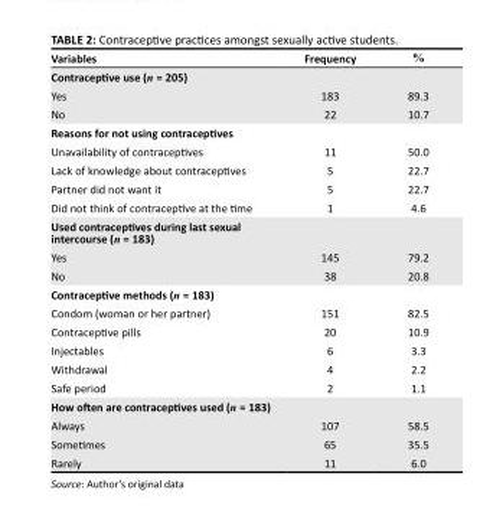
<table><thead><tr><td>Variables</td><td>Frequency</td><td>%</td></tr></thead><tbody><tr><td colspan="3">Contraceptive use (n = 205)</td></tr><tr><td>Yes</td><td>183</td><td>89.3</td></tr><tr><td>No</td><td>22</td><td>10.7</td></tr><tr><td colspan="3">Reasons for not using contraceptives</td></tr><tr><td>Unavailability of contraceptives</td><td>11</td><td>50.0</td></tr><tr><td>Lack of knowledge about contraceptives</td><td>5</td><td>22.7</td></tr><tr><td>Partner did not want it</td><td>5</td><td>22.7</td></tr><tr><td>Did not think of contraceptive at the time</td><td>1</td><td>4.6</td></tr><tr><td colspan="3">Used contraceptives during last sexual intercourse (n = 183)</td></tr><tr><td>Yes</td><td>145</td><td>79.2</td></tr><tr><td>No</td><td>38</td><td>20.8</td></tr><tr><td colspan="3">Contraceptive methods (n = 183)</td></tr><tr><td>Condom (woman or her partner)</td><td>151</td><td>82.5</td></tr><tr><td>Contraceptive pills</td><td>20</td><td>10.9</td></tr><tr><td>Injectables</td><td>6</td><td>3.3</td></tr><tr><td>Withdrawal</td><td>4</td><td>2.2</td></tr><tr><td>Safe period</td><td>2</td><td>1.1</td></tr><tr><td colspan="3">How often are contraceptives used (n = 183)</td></tr><tr><td>Always</td><td>107</td><td>58.5</td></tr><tr><td>Sometimes</td><td>65</td><td>35.5</td></tr><tr><td>Rarely</td><td>11</td><td>6.0</td></tr></tbody></table>